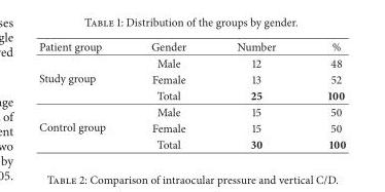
<table><thead><tr><td>Patient group</td><td>Gender</td><td>Number</td><td>%</td></tr></thead><tbody><tr><td rowspan="3">Study group</td><td>Male</td><td>12</td><td>48</td></tr><tr><td>Female</td><td>13</td><td>52</td></tr><tr><td>Total</td><td>25</td><td>100</td></tr><tr><td rowspan="3">Control group</td><td>Male</td><td>15</td><td>50</td></tr><tr><td>Female</td><td>15</td><td>50</td></tr><tr><td>Total</td><td>30</td><td>100</td></tr></tbody></table>